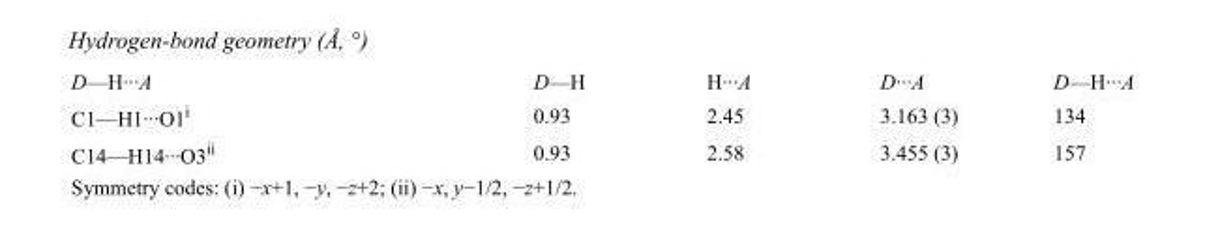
<table><tbody><tr><td>D—H···A</td><td>D—H</td><td>H···A</td><td>D···A</td><td>D—H···A</td></tr><tr><td>C1—H1···O1<sup>i</sup></td><td>0.93</td><td>2.45</td><td>3.163 (3)</td><td>134</td></tr><tr><td>C14—H14···O3<sup>ii</sup></td><td>0.93</td><td>2.58</td><td>3.455 (3)</td><td>157</td></tr></tbody></table>